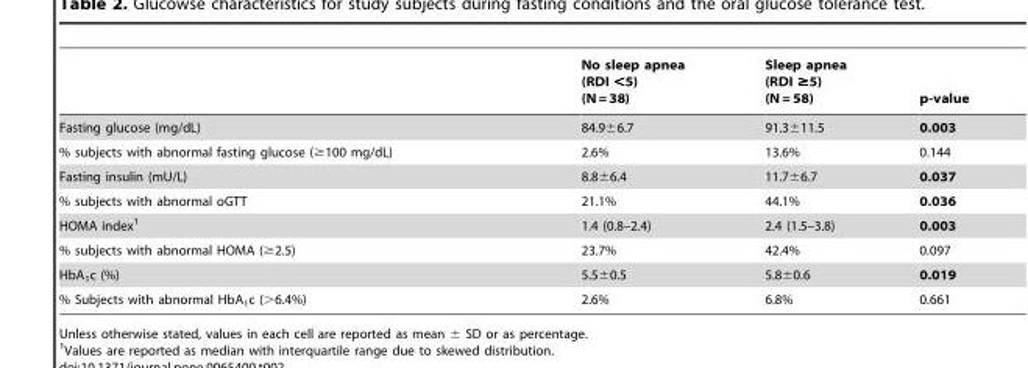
<table><thead><tr><td></td><td>No sleep apnea (RDI &lt;5) (N = 38)</td><td>Sleep apnea (RDI ≥5) (N = 58)</td><td>p-value</td></tr></thead><tbody><tr><td>Fasting glucose (mg/dL)</td><td>84.9±6.7</td><td>91.3±11.5</td><td>0.003</td></tr><tr><td>% subjects with abnormal fasting glucose (≥100 mg/dL)</td><td>2.6%</td><td>13.6%</td><td>0.144</td></tr><tr><td>Fasting insulin (mU/L)</td><td>8.8±6.4</td><td>11.7±6.7</td><td>0.037</td></tr><tr><td>% subjects with abnormal oGTT</td><td>21.1%</td><td>44.1%</td><td>0.036</td></tr><tr><td>HOMA index<sup>1</sup></td><td>1.4 (0.8–2.4)</td><td>2.4 (1.5–3.8)</td><td>0.003</td></tr><tr><td>% subjects with abnormal HOMA (≥2.5)</td><td>23.7%</td><td>42.4%</td><td>0.097</td></tr><tr><td>HbA<sub>1</sub>c (%)</td><td>5.5±0.5</td><td>5.8±0.6</td><td>0.019</td></tr><tr><td>% Subjects with abnormal HbA<sub>1</sub>c (&gt;6.4%)</td><td>2.6%</td><td>6.8%</td><td>0.661</td></tr></tbody></table>